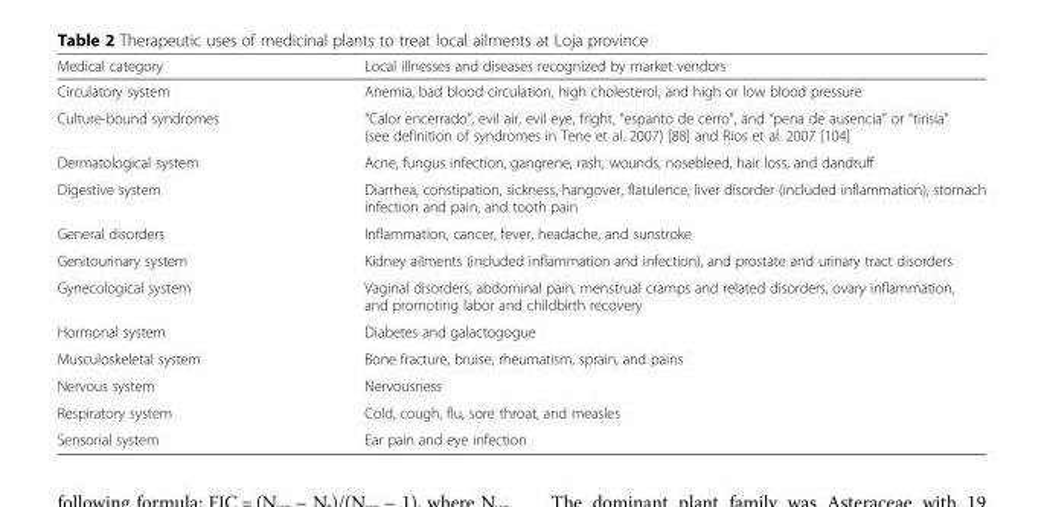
<table><thead><tr><td>Medical category</td><td>Local illnesses and diseases recognized by market vendors</td></tr></thead><tbody><tr><td>Circulatory system</td><td>Anemia, bad blood circulation, high cholesterol, and high or low blood pressure</td></tr><tr><td>Culture-bound syndromes</td><td>“Calor encerrado”, evil air, evil eye, fright, “espanto de cerro”, and “pena de ausencia” or “tirisia” (see definition of syndromes in Tene et al. 2007) [88] and Rios et al. 2007 [104]</td></tr><tr><td>Dermatological system</td><td>Acne, fungus infection, gangrene, rash, wounds, nosebleed, hair loss, and dandruff</td></tr><tr><td>Digestive system</td><td>Diarrhea, constipation, sickness, hangover, flatulence, liver disorder (included inflammation), stomach infection and pain, and tooth pain</td></tr><tr><td>General disorders</td><td>Inflammation, cancer, fever, headache, and sunstroke</td></tr><tr><td>Genitourinary system</td><td>Kidney ailments (included inflammation and infection), and prostate and urinary tract disorders</td></tr><tr><td>Gynecological system</td><td>Vaginal disorders, abdominal pain, menstrual cramps and related disorders, ovary inflammation, and promoting labor and childbirth recovery</td></tr><tr><td>Hormonal system</td><td>Diabetes and galactogogue</td></tr><tr><td>Musculoskeletal system</td><td>Bone fracture, bruise, rheumatism, sprain, and pains</td></tr><tr><td>Nervous system</td><td>Nervousness</td></tr><tr><td>Respiratory system</td><td>Cold, cough, flu, sore throat, and measles</td></tr><tr><td>Sensorial system</td><td>Ear pain and eye infection</td></tr></tbody></table>